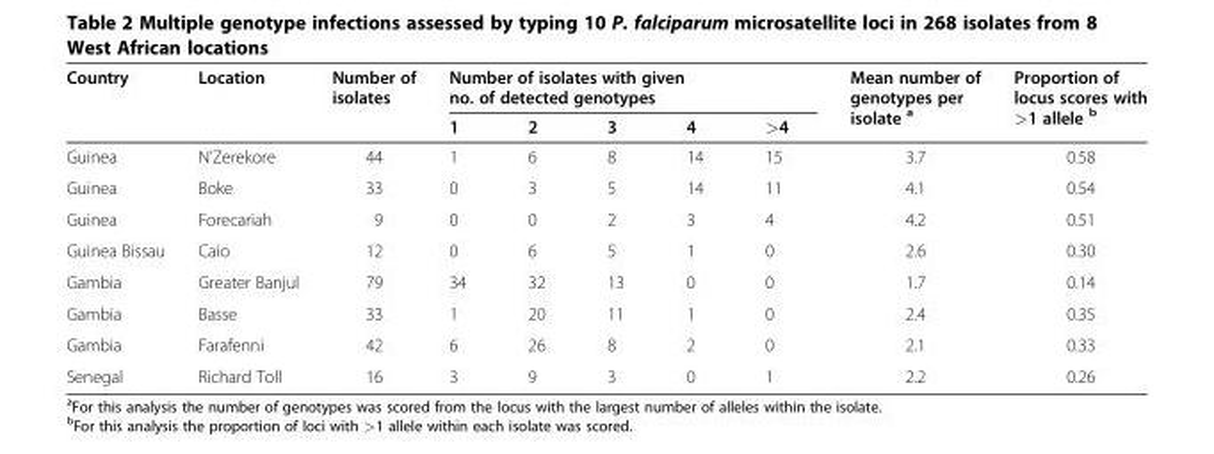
<table><thead><tr><td rowspan="2">Country</td><td rowspan="2">Location</td><td rowspan="2">Number of isolates</td><td colspan="5">Number of isolates with given no. of detected genotypes</td><td rowspan="2">Mean number of genotypes per isolate <sup>a</sup></td><td rowspan="2">Proportion of locus scores with &gt;1 allele <sup>b</sup></td></tr><tr><td>1</td><td>2</td><td>3</td><td>4</td><td>&gt;4</td></tr></thead><tbody><tr><td>Guinea</td><td>N’Zerekore</td><td>44</td><td>1</td><td>6</td><td>8</td><td>14</td><td>15</td><td>3.7</td><td>0.58</td></tr><tr><td>Guinea</td><td>Boke</td><td>33</td><td>0</td><td>3</td><td>5</td><td>14</td><td>11</td><td>4.1</td><td>0.54</td></tr><tr><td>Guinea</td><td>Forecariah</td><td>9</td><td>0</td><td>0</td><td>2</td><td>3</td><td>4</td><td>4.2</td><td>0.51</td></tr><tr><td>Guinea Bissau</td><td>Caio</td><td>12</td><td>0</td><td>6</td><td>5</td><td>1</td><td>0</td><td>2.6</td><td>0.30</td></tr><tr><td>Gambia</td><td>Greater Banjul</td><td>79</td><td>34</td><td>32</td><td>13</td><td>0</td><td>0</td><td>1.7</td><td>0.14</td></tr><tr><td>Gambia</td><td>Basse</td><td>33</td><td>1</td><td>20</td><td>11</td><td>1</td><td>0</td><td>2.4</td><td>0.35</td></tr><tr><td>Gambia</td><td>Farafenni</td><td>42</td><td>6</td><td>26</td><td>8</td><td>2</td><td>0</td><td>2.1</td><td>0.33</td></tr><tr><td>Senegal</td><td>Richard Toll</td><td>16</td><td>3</td><td>9</td><td>3</td><td>0</td><td>1</td><td>2.2</td><td>0.26</td></tr></tbody></table>